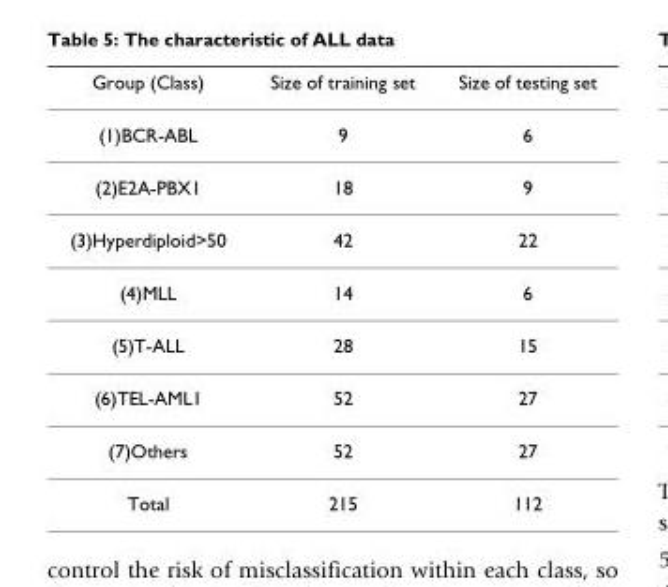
<table><thead><tr><td>Group (Class)</td><td>Size of training set</td><td>Size of testing set</td></tr></thead><tbody><tr><td>(1)BCR-ABL</td><td>9</td><td>6</td></tr><tr><td>(2)E2A-PBX1</td><td>18</td><td>9</td></tr><tr><td>(3)Hyperdiploid&gt;50</td><td>42</td><td>22</td></tr><tr><td>(4)MLL</td><td>14</td><td>6</td></tr><tr><td>(5)T-ALL</td><td>28</td><td>15</td></tr><tr><td>(6)TEL-AML1</td><td>52</td><td>27</td></tr><tr><td>(7)Others</td><td>52</td><td>27</td></tr><tr><td>Total</td><td>215</td><td>112</td></tr></tbody></table>